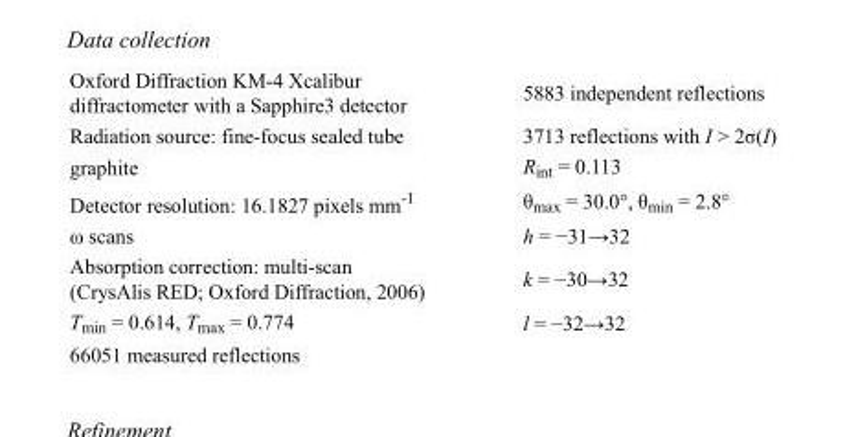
<table><tbody><tr><td>Oxford Diffraction KM-4 Xcalibur diffractometer with a Sapphire3 detector</td><td>5883 independent reflections</td></tr><tr><td>Radiation source: fine-focus sealed tube</td><td>3713 reflections with I &gt; 2σ(I)</td></tr><tr><td>graphite</td><td>R<sub>int</sub> = 0.113</td></tr><tr><td>Detector resolution: 16.1827 pixels mm<sup>-1</sup></td><td>θ<sub>max</sub> = 30.0°, θ<sub>min</sub> = 2.8°</td></tr><tr><td>ω scans</td><td>h = −31→32</td></tr><tr><td>Absorption correction: multi-scan (CrysAlis RED; Oxford Diffraction, 2006)</td><td>k = −30→32</td></tr><tr><td>T<sub>min</sub> = 0.614, T<sub>max</sub> = 0.774</td><td>l = −32→32</td></tr><tr><td>66051 measured reflections</td><td></td></tr></tbody></table>